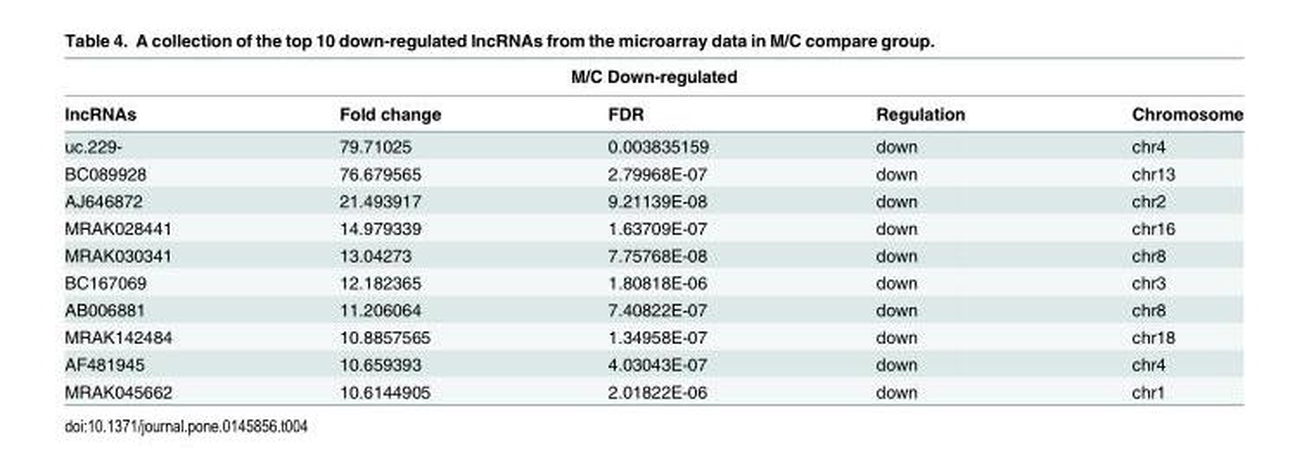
<table><thead><tr><td colspan="5">M/C Down-regulated</td></tr><tr><td>lncRNAs</td><td>Fold change</td><td>FDR</td><td>Regulation</td><td>Chromosome</td></tr></thead><tbody><tr><td>uc.229-</td><td>79.71025</td><td>0.003835159</td><td>down</td><td>chr4</td></tr><tr><td>BC089928</td><td>76.679565</td><td>2.79968E-07</td><td>down</td><td>chr13</td></tr><tr><td>AJ646872</td><td>21.493917</td><td>9.21139E-08</td><td>down</td><td>chr2</td></tr><tr><td>MRAK028441</td><td>14.979339</td><td>1.63709E-07</td><td>down</td><td>chr16</td></tr><tr><td>MRAK030341</td><td>13.04273</td><td>7.75768E-08</td><td>down</td><td>chr8</td></tr><tr><td>BC167069</td><td>12.182365</td><td>1.80818E-06</td><td>down</td><td>chr3</td></tr><tr><td>AB006881</td><td>11.206064</td><td>7.40822E-07</td><td>down</td><td>chr8</td></tr><tr><td>MRAK142484</td><td>10.8857565</td><td>1.34958E-07</td><td>down</td><td>chr18</td></tr><tr><td>AF481945</td><td>10.659393</td><td>4.03043E-07</td><td>down</td><td>chr4</td></tr><tr><td>MRAK045662</td><td>10.6144905</td><td>2.01822E-06</td><td>down</td><td>chr1</td></tr></tbody></table>